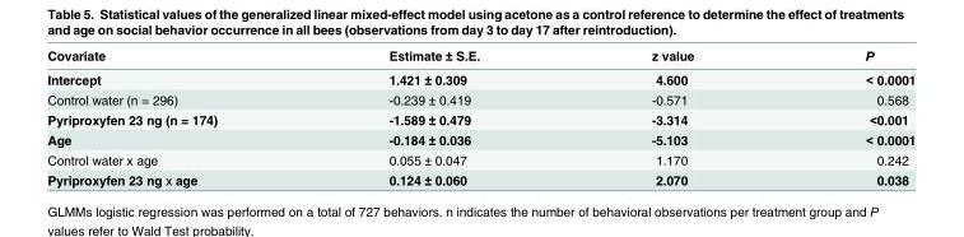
<table><thead><tr><td>Covariate</td><td>Estimate ± S.E.</td><td>z value</td><td>P</td></tr></thead><tbody><tr><td>Intercept</td><td>1.421 ± 0.309</td><td>4.600</td><td>&lt; 0.0001</td></tr><tr><td>Control water (n = 296)</td><td>-0.239 ± 0.419</td><td>-0.571</td><td>0.568</td></tr><tr><td>Pyriproxyfen 23 ng (n = 174)</td><td>-1.589 ± 0.479</td><td>-3.314</td><td>&lt;0.001</td></tr><tr><td>Age</td><td>-0.184 ± 0.036</td><td>-5.103</td><td>&lt; 0.0001</td></tr><tr><td>Control water x age</td><td>0.055 ± 0.047</td><td>1.170</td><td>0.242</td></tr><tr><td>Pyriproxyfen 23 ng x age</td><td>0.124 ± 0.060</td><td>2.070</td><td>0.038</td></tr></tbody></table>